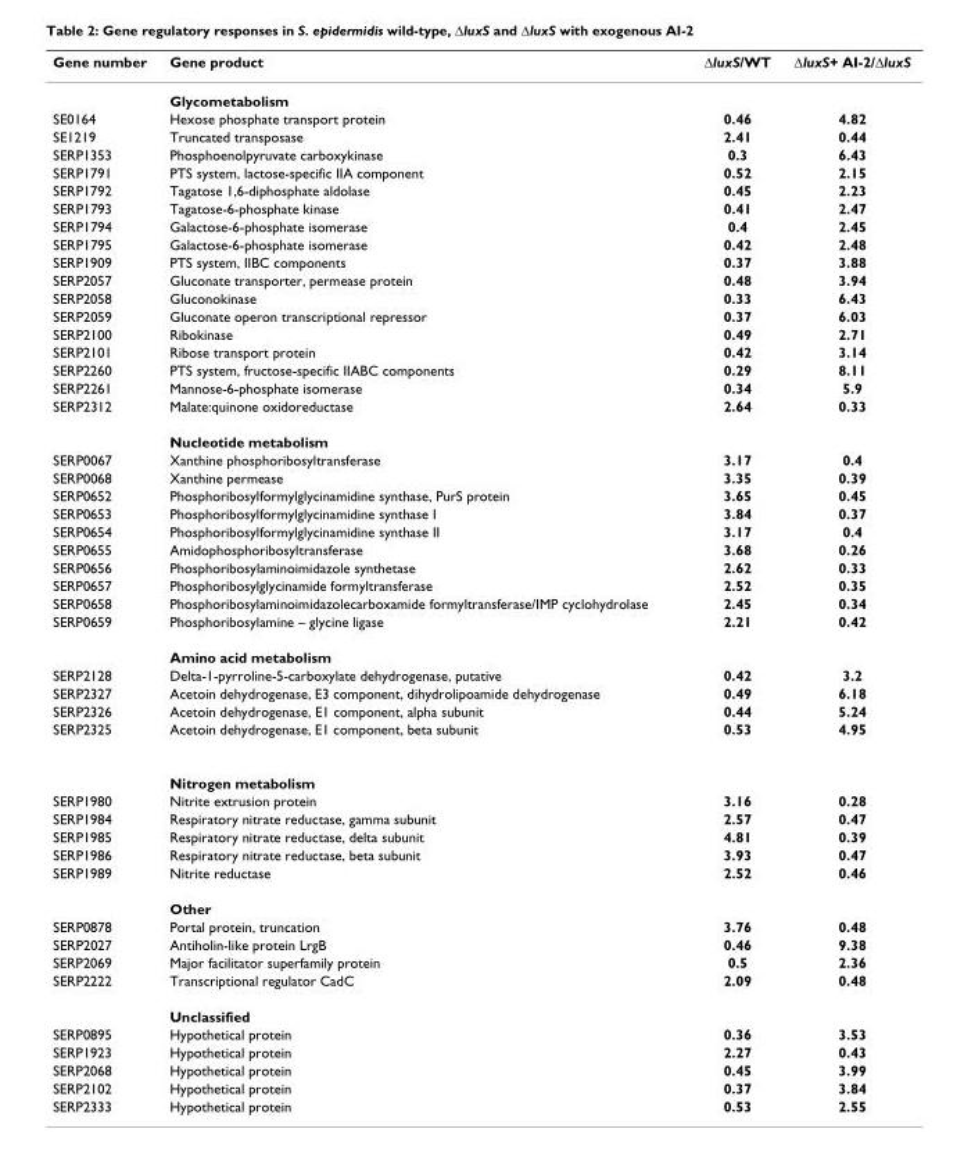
<table><thead><tr><td>Gene number</td><td>Gene product</td><td>∆luxS/WT</td><td>∆luxS+ AI-2/∆luxS</td></tr></thead><tbody><tr><td></td><td>Glycometabolism</td><td></td><td></td></tr><tr><td>SE0164</td><td>Hexose phosphate transport protein</td><td>0.46</td><td>4.82</td></tr><tr><td>SE1219</td><td>Truncated transposase</td><td>2.41</td><td>0.44</td></tr><tr><td>SERP1353</td><td>Phosphoenolpyruvate carboxykinase</td><td>0.3</td><td>6.43</td></tr><tr><td>SERP1791</td><td>PTS system, lactose-specific IIA component</td><td>0.52</td><td>2.15</td></tr><tr><td>SERP1792</td><td>Tagatose 1,6-diphosphate aldolase</td><td>0.45</td><td>2.23</td></tr><tr><td>SERP1793</td><td>Tagatose-6-phosphate kinase</td><td>0.41</td><td>2.47</td></tr><tr><td>SERP1794</td><td>Galactose-6-phosphate isomerase</td><td>0.4</td><td>2.45</td></tr><tr><td>SERP1795</td><td>Galactose-6-phosphate isomerase</td><td>0.42</td><td>2.48</td></tr><tr><td>SERP1909</td><td>PTS system, IIBC components</td><td>0.37</td><td>3.88</td></tr><tr><td>SERP2057</td><td>Gluconate transporter, permease protein</td><td>0.48</td><td>3.94</td></tr><tr><td>SERP2058</td><td>Gluconokinase</td><td>0.33</td><td>6.43</td></tr><tr><td>SERP2059</td><td>Gluconate operon transcriptional repressor</td><td>0.37</td><td>6.03</td></tr><tr><td>SERP2100</td><td>Ribokinase</td><td>0.49</td><td>2.71</td></tr><tr><td>SERP2101</td><td>Ribose transport protein</td><td>0.42</td><td>3.14</td></tr><tr><td>SERP2260</td><td>PTS system, fructose-specific IIABC components</td><td>0.29</td><td>8.11</td></tr><tr><td>SERP2261</td><td>Mannose-6-phosphate isomerase</td><td>0.34</td><td>5.9</td></tr><tr><td rowspan="2">SERP2312</td><td>Malate:quinone oxidoreductase</td><td>2.64</td><td>0.33</td></tr><tr><td>Nucleotide metabolism</td><td></td><td></td></tr><tr><td>SERP0067</td><td>Xanthine phosphoribosyltransferase</td><td>3.17</td><td>0.4</td></tr><tr><td>SERP0068</td><td>Xanthine permease</td><td>3.35</td><td>0.39</td></tr><tr><td>SERP0652</td><td>Phosphoribosylformylglycinamidine synthase, PurS protein</td><td>3.65</td><td>0.45</td></tr><tr><td>SERP0653</td><td>Phosphoribosylformylglycinamidine synthase I</td><td>3.84</td><td>0.37</td></tr><tr><td>SERP0654</td><td>Phosphoribosylformylglycinamidine synthase II</td><td>3.17</td><td>0.4</td></tr><tr><td>SERP0655</td><td>Amidophosphoribosyltransferase</td><td>3.68</td><td>0.26</td></tr><tr><td>SERP0656</td><td>Phosphoribosylaminoimidazole synthetase</td><td>2.62</td><td>0.33</td></tr><tr><td>SERP0657</td><td>Phosphoribosylglycinamide formyltransferase</td><td>2.52</td><td>0.35</td></tr><tr><td>SERP0658</td><td>Phosphoribosylaminoimidazolecarboxamide formyltransferase/IMP cyclohydrolase</td><td>2.45</td><td>0.34</td></tr><tr><td rowspan="2">SERP0659</td><td>Phosphoribosylamine – glycine ligase</td><td>2.21</td><td>0.42</td></tr><tr><td>Amino acid metabolism</td><td></td><td></td></tr><tr><td>SERP2128</td><td>Delta-1-pyrroline-5-carboxylate dehydrogenase, putative</td><td>0.42</td><td>3.2</td></tr><tr><td>SERP2327</td><td>Acetoin dehydrogenase, E3 component, dihydrolipoamide dehydrogenase</td><td>0.49</td><td>6.18</td></tr><tr><td>SERP2326</td><td>Acetoin dehydrogenase, E1 component, alpha subunit</td><td>0.44</td><td>5.24</td></tr><tr><td rowspan="2">SERP2325</td><td>Acetoin dehydrogenase, E1 component, beta subunit</td><td>0.53</td><td>4.95</td></tr><tr><td>Nitrogen metabolism</td><td></td><td></td></tr><tr><td>SERP1980</td><td>Nitrite extrusion protein</td><td>3.16</td><td>0.28</td></tr><tr><td>SERP1984</td><td>Respiratory nitrate reductase, gamma subunit</td><td>2.57</td><td>0.47</td></tr><tr><td>SERP1985</td><td>Respiratory nitrate reductase, delta subunit</td><td>4.81</td><td>0.39</td></tr><tr><td>SERP1986</td><td>Respiratory nitrate reductase, beta subunit</td><td>3.93</td><td>0.47</td></tr><tr><td rowspan="2">SERP1989</td><td>Nitrite reductase</td><td>2.52</td><td>0.46</td></tr><tr><td>Other</td><td></td><td></td></tr><tr><td>SERP0878</td><td>Portal protein, truncation</td><td>3.76</td><td>0.48</td></tr><tr><td>SERP2027</td><td>Antiholin-like protein LrgB</td><td>0.46</td><td>9.38</td></tr><tr><td>SERP2069</td><td>Major facilitator superfamily protein</td><td>0.5</td><td>2.36</td></tr><tr><td rowspan="2">SERP2222</td><td>Transcriptional regulator CadC</td><td>2.09</td><td>0.48</td></tr><tr><td>Unclassified</td><td></td><td></td></tr><tr><td>SERP0895</td><td>Hypothetical protein</td><td>0.36</td><td>3.53</td></tr><tr><td>SERP1923</td><td>Hypothetical protein</td><td>2.27</td><td>0.43</td></tr><tr><td>SERP2068</td><td>Hypothetical protein</td><td>0.45</td><td>3.99</td></tr><tr><td>SERP2102</td><td>Hypothetical protein</td><td>0.37</td><td>3.84</td></tr><tr><td>SERP2333</td><td>Hypothetical protein</td><td>0.53</td><td>2.55</td></tr></tbody></table>